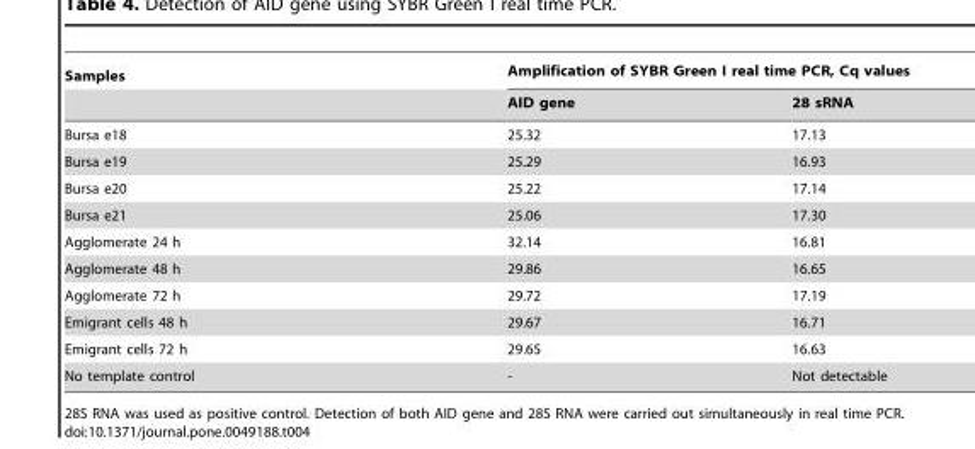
<table><thead><tr><td rowspan="2">Samples</td><td colspan="2">Amplification of SYBR Green I real time PCR, Cq values</td></tr><tr><td>AID gene</td><td>28 sRNA</td></tr></thead><tbody><tr><td>Bursa e18</td><td>25.32</td><td>17.13</td></tr><tr><td>Bursa e19</td><td>25.29</td><td>16.93</td></tr><tr><td>Bursa e20</td><td>25.22</td><td>17.14</td></tr><tr><td>Bursa e21</td><td>25.06</td><td>17.30</td></tr><tr><td>Agglomerate 24 h</td><td>32.14</td><td>16.81</td></tr><tr><td>Agglomerate 48 h</td><td>29.86</td><td>16.65</td></tr><tr><td>Agglomerate 72 h</td><td>29.72</td><td>17.19</td></tr><tr><td>Emigrant cells 48 h</td><td>29.67</td><td>16.71</td></tr><tr><td>Emigrant cells 72 h</td><td>29.65</td><td>16.63</td></tr><tr><td>No template control</td><td>-</td><td>Not detectable</td></tr></tbody></table>